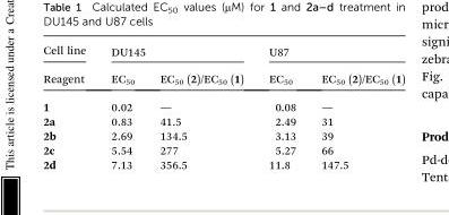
<table><thead><tr><td rowspan="2">Cell line Reagent</td><td colspan="2">DU145</td><td colspan="2">U87</td></tr><tr><td>EC<sub>50</sub></td><td>EC<sub>50</sub> (2)/EC<sub>50</sub> (1)</td><td>EC<sub>50</sub></td><td>EC<sub>50</sub> (2)/EC<sub>50</sub> (1)</td></tr></thead><tbody><tr><td>1</td><td>0.02</td><td>—</td><td>0.08</td><td>—</td></tr><tr><td>2a</td><td>0.83</td><td>41.5</td><td>2.49</td><td>31</td></tr><tr><td>2b</td><td>2.69</td><td>134.5</td><td>3.13</td><td>39</td></tr><tr><td>2c</td><td>5.54</td><td>277</td><td>5.27</td><td>66</td></tr><tr><td>2d</td><td>7.13</td><td>356.5</td><td>11.8</td><td>147.5</td></tr></tbody></table>